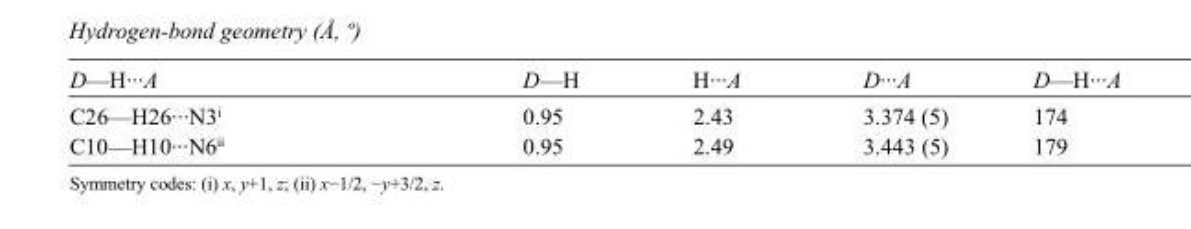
<table><tbody><tr><td>D—H···A</td><td>D—H</td><td>H···A</td><td>D···A</td><td>D—H···A</td></tr><tr><td>C26—H26···N3<sup>i</sup></td><td>0.95</td><td>2.43</td><td>3.374 (5)</td><td>174</td></tr><tr><td>C10—H10···N6<sup>ii</sup></td><td>0.95</td><td>2.49</td><td>3.443 (5)</td><td>179</td></tr></tbody></table>